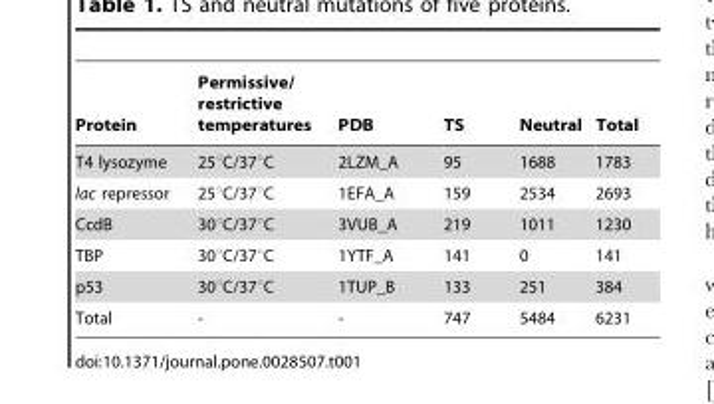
<table><thead><tr><td>Protein</td><td>Permissive/ restrictive temperatures</td><td>PDB</td><td>TS</td><td>Neutral</td><td>Total</td></tr></thead><tbody><tr><td>T4 lysozyme</td><td>25°C/37°C</td><td>2LZM_A</td><td>95</td><td>1688</td><td>1783</td></tr><tr><td>lac repressor</td><td>25°C/37°C</td><td>1EFA_A</td><td>159</td><td>2534</td><td>2693</td></tr><tr><td>CcdB</td><td>30°C/37°C</td><td>3VUB_A</td><td>219</td><td>1011</td><td>1230</td></tr><tr><td>TBP</td><td>30°C/37°C</td><td>1YTF_A</td><td>141</td><td>0</td><td>141</td></tr><tr><td>p53</td><td>30°C/37°C</td><td>1TUP_B</td><td>133</td><td>251</td><td>384</td></tr><tr><td>Total</td><td>-</td><td>-</td><td>747</td><td>5484</td><td>6231</td></tr></tbody></table>